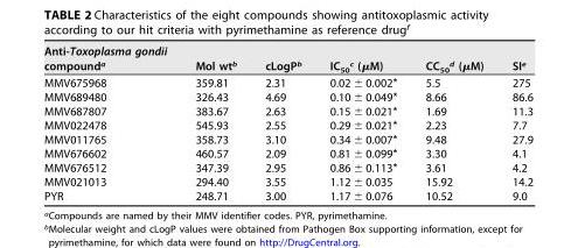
<table><thead><tr><td>Anti-Toxoplasma gondii compound<sup>a</sup></td><td>Mol wt<sup>b</sup></td><td>cLogP<sup>b</sup></td><td>IC<sub>50</sub><sup>c</sup> (μM)</td><td>CC<sub>50</sub><sup>d</sup> (μM)</td><td>SI<sup>e</sup></td></tr></thead><tbody><tr><td>MMV675968</td><td>359.81</td><td>2.31</td><td>0.02 ± 0.002*</td><td>5.5</td><td>275</td></tr><tr><td>MMV689480</td><td>326.43</td><td>4.69</td><td>0.10 ± 0.049*</td><td>8.66</td><td>86.6</td></tr><tr><td>MMV687807</td><td>383.67</td><td>2.63</td><td>0.15 ± 0.021*</td><td>1.69</td><td>11.3</td></tr><tr><td>MMV022478</td><td>545.93</td><td>2.55</td><td>0.29 ± 0.021*</td><td>2.23</td><td>7.7</td></tr><tr><td>MMV011765</td><td>358.73</td><td>3.10</td><td>0.34 ± 0.007*</td><td>9.48</td><td>27.9</td></tr><tr><td>MMV676602</td><td>460.57</td><td>2.09</td><td>0.81 ± 0.099*</td><td>3.30</td><td>4.1</td></tr><tr><td>MMV676512</td><td>347.39</td><td>2.95</td><td>0.86 ± 0.113*</td><td>3.61</td><td>4.2</td></tr><tr><td>MMV021013</td><td>294.40</td><td>3.55</td><td>1.12 ± 0.035</td><td>15.92</td><td>14.2</td></tr><tr><td>PYR</td><td>248.71</td><td>3.00</td><td>1.17 ± 0.076</td><td>10.52</td><td>9.0</td></tr></tbody></table>